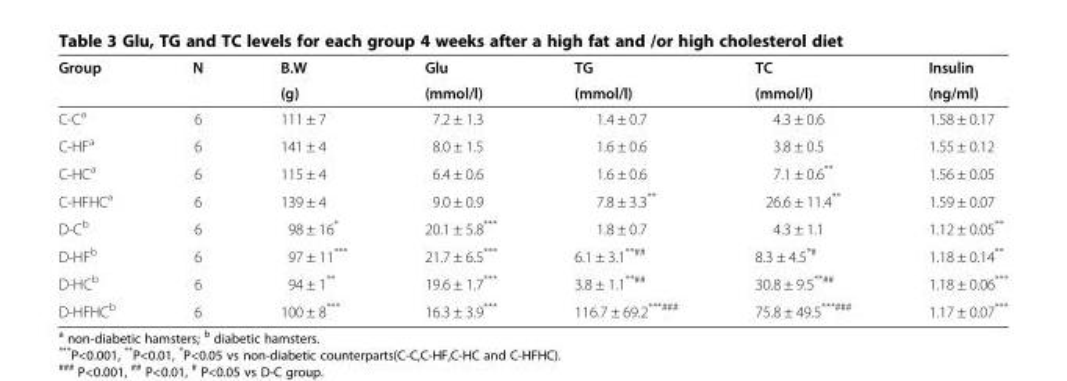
<table><thead><tr><td rowspan="2">Group</td><td rowspan="2">N</td><td rowspan="2">B.W (g)</td><td rowspan="2">Glu (mmol/l)</td><td rowspan="2">TG (mmol/l)</td><td rowspan="2">TC (mmol/l)</td><td rowspan="2">Insulin (ng/ml)</td></tr><tr></tr></thead><tbody><tr><td>C-C<sup>a</sup></td><td>6</td><td>111 ± 7</td><td>7.2 ± 1.3</td><td>1.4 ± 0.7</td><td>4.3 ± 0.6</td><td>1.58 ± 0.17</td></tr><tr><td>C-HF<sup>a</sup></td><td>6</td><td>141 ± 4</td><td>8.0 ± 1.5</td><td>1.6 ± 0.6</td><td>3.8 ± 0.5</td><td>1.55 ± 0.12</td></tr><tr><td>C-HC<sup>a</sup></td><td>6</td><td>115 ± 4</td><td>6.4 ± 0.6</td><td>1.6 ± 0.6</td><td>7.1 ± 0.6**</td><td>1.56 ± 0.05</td></tr><tr><td>C-HFHC<sup>a</sup></td><td>6</td><td>139 ± 4</td><td>9.0 ± 0.9</td><td>7.8 ± 3.3**</td><td>26.6 ± 11.4**</td><td>1.59 ± 0.07</td></tr><tr><td>D-C<sup>b</sup></td><td>6</td><td>98 ± 16*</td><td>20.1 ± 5.8***</td><td>1.8 ± 0.7</td><td>4.3 ± 1.1</td><td>1.12 ± 0.05**</td></tr><tr><td>D-HF<sup>b</sup></td><td>6</td><td>97 ± 11***</td><td>21.7 ± 6.5***</td><td>6.1 ± 3.1<sup>**##</sup></td><td>8.3 ± 4.5<sup>*#</sup></td><td>1.18 ± 0.14**</td></tr><tr><td>D-HC<sup>b</sup></td><td>6</td><td>94 ± 1**</td><td>19.6 ± 1.7***</td><td>3.8 ± 1.1<sup>**##</sup></td><td>30.8 ± 9.5<sup>**##</sup></td><td>1.18 ± 0.06***</td></tr><tr><td>D-HFHC<sup>b</sup></td><td>6</td><td>100 ± 8***</td><td>16.3 ± 3.9***</td><td>116.7 ± 69.2<sup>***###</sup></td><td>75.8 ± 49.5<sup>***###</sup></td><td>1.17 ± 0.07***</td></tr></tbody></table>